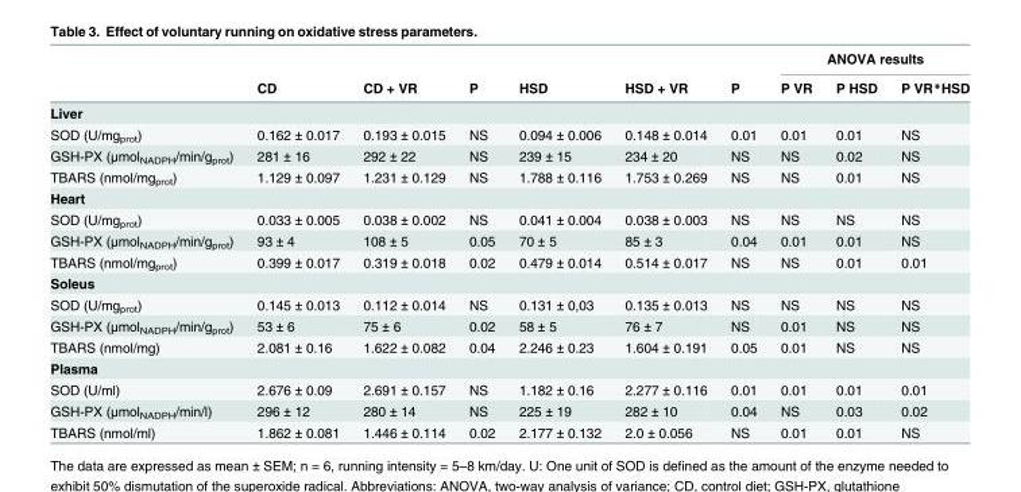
<table><thead><tr><td rowspan="2"></td><td rowspan="2">CD</td><td rowspan="2">CD + VR</td><td rowspan="2">P</td><td rowspan="2">HSD</td><td rowspan="2">HSD + VR</td><td rowspan="2">P</td><td colspan="3">ANOVA results</td></tr><tr><td>P VR</td><td>P HSD</td><td>P VR*HSD</td></tr></thead><tbody><tr><td colspan="10">Liver</td></tr><tr><td>SOD (U/mg<sub>prot</sub>)</td><td>0.162 ± 0.017</td><td>0.193 ± 0.015</td><td>NS</td><td>0.094 ± 0.006</td><td>0.148 ± 0.014</td><td>0.01</td><td>0.01</td><td>0.01</td><td>NS</td></tr><tr><td>GSH-PX (µmol<sub>NADPH</sub>/min/g<sub>prot</sub>)</td><td>281 ± 16</td><td>292 ± 22</td><td>NS</td><td>239 ± 15</td><td>234 ± 20</td><td>NS</td><td>NS</td><td>0.02</td><td>NS</td></tr><tr><td>TBARS (nmol/mg<sub>prot</sub>)</td><td>1.129 ± 0.097</td><td>1.231 ± 0.129</td><td>NS</td><td>1.788 ± 0.116</td><td>1.753 ± 0.269</td><td>NS</td><td>NS</td><td>0.01</td><td>NS</td></tr><tr><td colspan="10">Heart</td></tr><tr><td>SOD (U/mg<sub>prot</sub>)</td><td>0.033 ± 0.005</td><td>0.038 ± 0.002</td><td>NS</td><td>0.041 ± 0.004</td><td>0.038 ± 0.003</td><td>NS</td><td>NS</td><td>NS</td><td>NS</td></tr><tr><td>GSH-PX (µmol<sub>NADPH</sub>/min/g<sub>prot</sub>)</td><td>93 ± 4</td><td>108 ± 5</td><td>0.05</td><td>70 ± 5</td><td>85 ± 3</td><td>0.04</td><td>0.01</td><td>0.01</td><td>NS</td></tr><tr><td>TBARS (nmol/mg<sub>prot</sub>)</td><td>0.399 ± 0.017</td><td>0.319 ± 0.018</td><td>0.02</td><td>0.479 ± 0.014</td><td>0.514 ± 0.017</td><td>NS</td><td>NS</td><td>0.01</td><td>0.01</td></tr><tr><td colspan="10">Soleus</td></tr><tr><td>SOD (U/mg<sub>prot</sub>)</td><td>0.145 ± 0.013</td><td>0.112 ± 0.014</td><td>NS</td><td>0.131 ± 0,03</td><td>0.135 ± 0.013</td><td>NS</td><td>NS</td><td>NS</td><td>NS</td></tr><tr><td>GSH-PX (µmol<sub>NADPH</sub>/min/g<sub>prot</sub>)</td><td>53 ± 6</td><td>75 ± 6</td><td>0.02</td><td>58 ± 5</td><td>76 ± 7</td><td>NS</td><td>0.01</td><td>NS</td><td>NS</td></tr><tr><td>TBARS (nmol/mg)</td><td>2.081 ± 0.16</td><td>1.622 ± 0.082</td><td>0.04</td><td>2.246 ± 0.23</td><td>1.604 ± 0.191</td><td>0.05</td><td>0.01</td><td>NS</td><td>NS</td></tr><tr><td colspan="10">Plasma</td></tr><tr><td>SOD (U/ml)</td><td>2.676 ± 0.09</td><td>2.691 ± 0.157</td><td>NS</td><td>1.182 ± 0.16</td><td>2.277 ± 0.116</td><td>0.01</td><td>0.01</td><td>0.01</td><td>0.01</td></tr><tr><td>GSH-PX (µmol<sub>NADPH</sub>/min/l)</td><td>296 ± 12</td><td>280 ± 14</td><td>NS</td><td>225 ± 19</td><td>282 ± 10</td><td>0.04</td><td>NS</td><td>0.03</td><td>0.02</td></tr><tr><td>TBARS (nmol/ml)</td><td>1.862 ± 0.081</td><td>1.446 ± 0.114</td><td>0.02</td><td>2.177 ± 0.132</td><td>2.0 ± 0.056</td><td>NS</td><td>0.01</td><td>0.01</td><td>NS</td></tr></tbody></table>